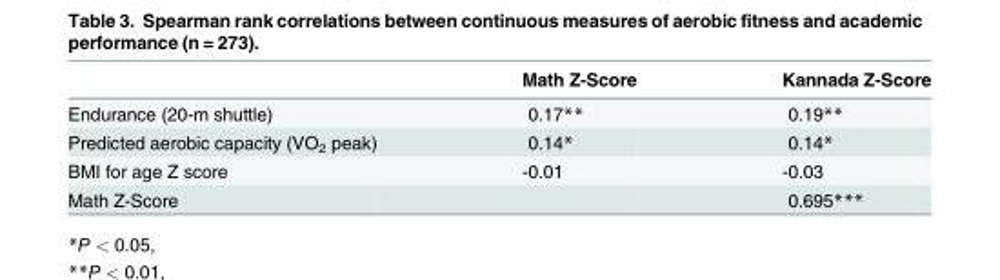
<table><thead><tr><td></td><td>Math Z-Score</td><td>Kannada Z-Score</td></tr></thead><tbody><tr><td>Endurance (20-m shuttle)</td><td>0.17**</td><td>0.19**</td></tr><tr><td>Predicted aerobic capacity (VO<sub>2</sub> peak)</td><td>0.14*</td><td>0.14*</td></tr><tr><td>BMI for age Z score</td><td>-0.01</td><td>-0.03</td></tr><tr><td>Math Z-Score</td><td></td><td>0.695***</td></tr></tbody></table>